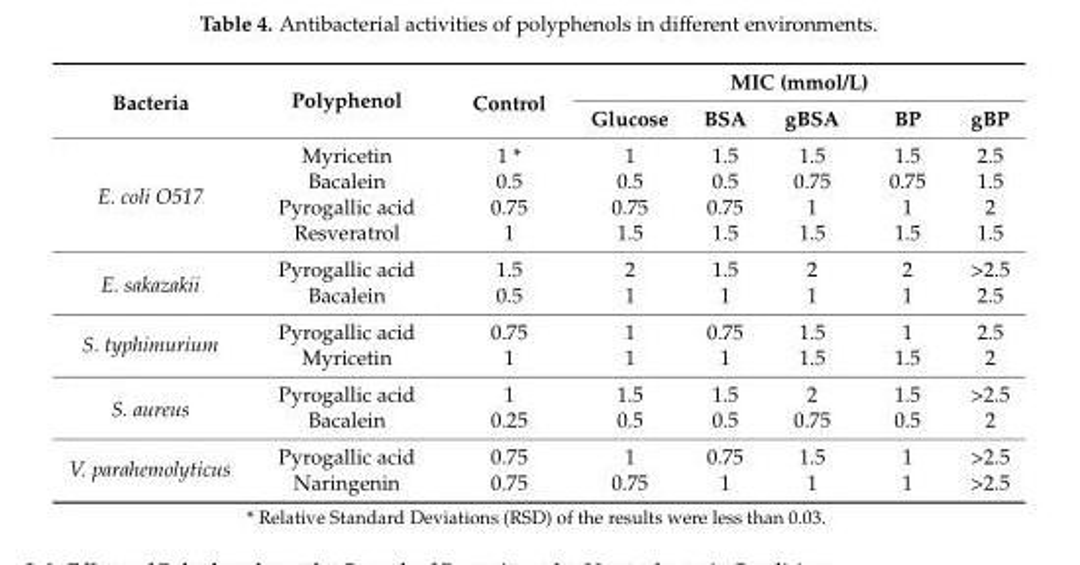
<table><thead><tr><td rowspan="2">Bacteria</td><td rowspan="2">Polyphenol</td><td rowspan="2">Control</td><td colspan="5">MIC (mmol/L)</td></tr><tr><td>Glucose</td><td>BSA</td><td>gBSA</td><td>BP</td><td>gBP</td></tr></thead><tbody><tr><td rowspan="4">E. coli O517</td><td>Myricetin</td><td>1 *</td><td>1</td><td>1.5</td><td>1.5</td><td>1.5</td><td>2.5</td></tr><tr><td>Bacalein</td><td>0.5</td><td>0.5</td><td>0.5</td><td>0.75</td><td>0.75</td><td>1.5</td></tr><tr><td>Pyrogallic acid</td><td>0.75</td><td>0.75</td><td>0.75</td><td>1</td><td>1</td><td>2</td></tr><tr><td>Resveratrol</td><td>1</td><td>1.5</td><td>1.5</td><td>1.5</td><td>1.5</td><td>1.5</td></tr><tr><td rowspan="2">E. sakazakii</td><td>Pyrogallic acid</td><td>1.5</td><td>2</td><td>1.5</td><td>2</td><td>2</td><td>&gt;2.5</td></tr><tr><td>Bacalein</td><td>0.5</td><td>1</td><td>1</td><td>1</td><td>1</td><td>2.5</td></tr><tr><td rowspan="2">S. typhimurium</td><td>Pyrogallic acid</td><td>0.75</td><td>1</td><td>0.75</td><td>1.5</td><td>1</td><td>2.5</td></tr><tr><td>Myricetin</td><td>1</td><td>1</td><td>1</td><td>1.5</td><td>1.5</td><td>2</td></tr><tr><td rowspan="2">S. aureus</td><td>Pyrogallic acid</td><td>1</td><td>1.5</td><td>1.5</td><td>2</td><td>1.5</td><td>&gt;2.5</td></tr><tr><td>Bacalein</td><td>0.25</td><td>0.5</td><td>0.5</td><td>0.75</td><td>0.5</td><td>2</td></tr><tr><td rowspan="2">V. parahemolyticus</td><td>Pyrogallic acid</td><td>0.75</td><td>1</td><td>0.75</td><td>1.5</td><td>1</td><td>&gt;2.5</td></tr><tr><td>Naringenin</td><td>0.75</td><td>0.75</td><td>1</td><td>1</td><td>1</td><td>&gt;2.5</td></tr></tbody></table>